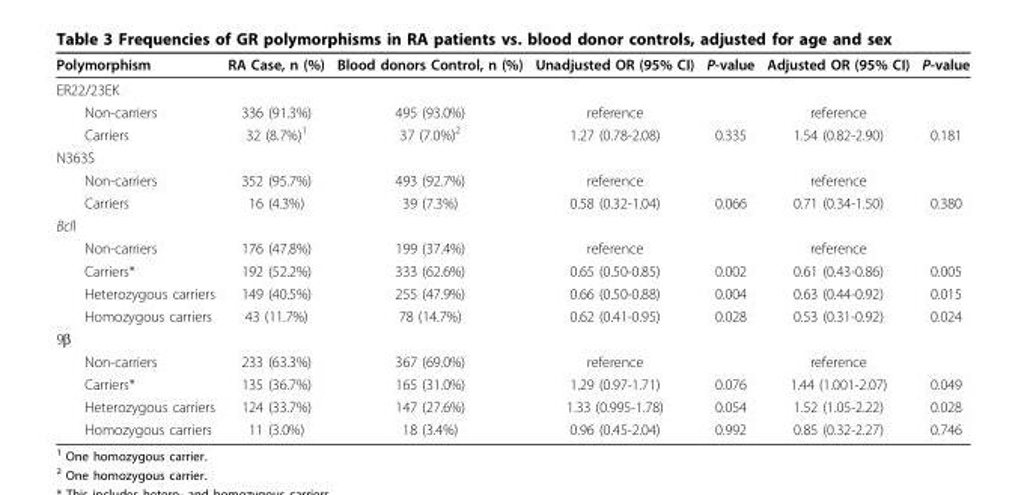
<table><thead><tr><td>Polymorphism</td><td>RA Case, n (%)</td><td>Blood donors Control, n (%)</td><td>Unadjusted OR (95% CI)</td><td>P-value</td><td>Adjusted OR (95% CI)</td><td>P-value</td></tr></thead><tbody><tr><td colspan="7">ER22/23EK</td></tr><tr><td>Non-carriers</td><td>336 (91.3%)</td><td>495 (93.0%)</td><td>reference</td><td></td><td>reference</td><td></td></tr><tr><td>Carriers</td><td>32 (8.7%)<sup>1</sup></td><td>37 (7.0%)<sup>2</sup></td><td>1.27 (0.78-2.08)</td><td>0.335</td><td>1.54 (0.82-2.90)</td><td>0.181</td></tr><tr><td colspan="7">N363S</td></tr><tr><td>Non-carriers</td><td>352 (95.7%)</td><td>493 (92.7%)</td><td>reference</td><td></td><td>reference</td><td></td></tr><tr><td>Carriers</td><td>16 (4.3%)</td><td>39 (7.3%)</td><td>0.58 (0.32-1.04)</td><td>0.066</td><td>0.71 (0.34-1.50)</td><td>0.380</td></tr><tr><td colspan="7">BclI</td></tr><tr><td>Non-carriers</td><td>176 (47.8%)</td><td>199 (37.4%)</td><td>reference</td><td></td><td>reference</td><td></td></tr><tr><td>Carriers*</td><td>192 (52.2%)</td><td>333 (62.6%)</td><td>0.65 (0.50-0.85)</td><td>0.002</td><td>0.61 (0.43-0.86)</td><td>0.005</td></tr><tr><td>Heterozygous carriers</td><td>149 (40.5%)</td><td>255 (47.9%)</td><td>0.66 (0.50-0.88)</td><td>0.004</td><td>0.63 (0.44-0.92)</td><td>0.015</td></tr><tr><td>Homozygous carriers</td><td>43 (11.7%)</td><td>78 (14.7%)</td><td>0.62 (0.41-0.95)</td><td>0.028</td><td>0.53 (0.31-0.92)</td><td>0.024</td></tr><tr><td colspan="7">9β</td></tr><tr><td>Non-carriers</td><td>233 (63.3%)</td><td>367 (69.0%)</td><td>reference</td><td></td><td>reference</td><td></td></tr><tr><td>Carriers*</td><td>135 (36.7%)</td><td>165 (31.0%)</td><td>1.29 (0.97-1.71)</td><td>0.076</td><td>1.44 (1.001-2.07)</td><td>0.049</td></tr><tr><td>Heterozygous carriers</td><td>124 (33.7%)</td><td>147 (27.6%)</td><td>1.33 (0.995-1.78)</td><td>0.054</td><td>1.52 (1.05-2.22)</td><td>0.028</td></tr><tr><td>Homozygous carriers</td><td>11 (3.0%)</td><td>18 (3.4%)</td><td>0.96 (0.45-2.04)</td><td>0.992</td><td>0.85 (0.32-2.27)</td><td>0.746</td></tr></tbody></table>